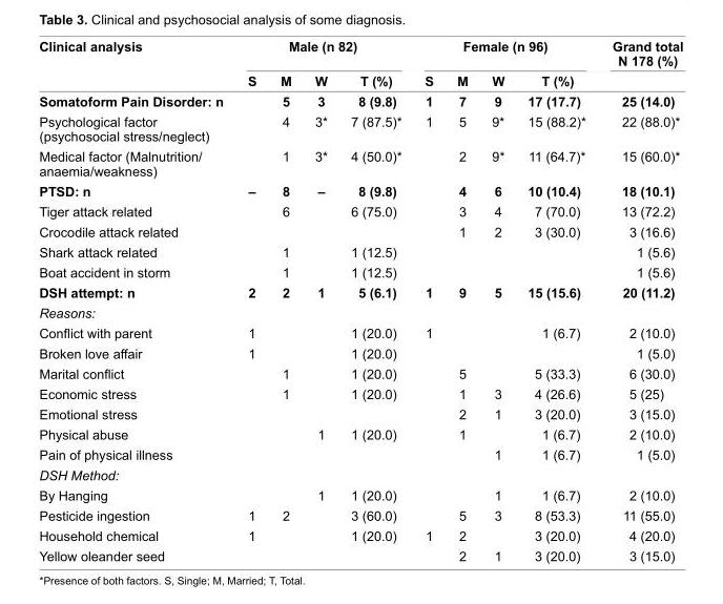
<table><thead><tr><td rowspan="2">Clinical analysis</td><td colspan="4">Male (n 82)</td><td colspan="4">Female (n 96)</td><td rowspan="2">Grand total N 178 (%)</td></tr><tr><td>S</td><td>M</td><td>W</td><td>T (%)</td><td>S</td><td>M</td><td>W</td><td>T (%)</td></tr></thead><tbody><tr><td>Somatoform Pain Disorder: n</td><td></td><td>5</td><td>3</td><td>8 (9.8)</td><td>1</td><td>7</td><td>9</td><td>17 (17.7)</td><td>25 (14.0)</td></tr><tr><td>Psychological factor (psychosocial stress/neglect)</td><td></td><td>4</td><td>3*</td><td>7 (87.5)*</td><td>1</td><td>5</td><td>9*</td><td>15 (88.2)*</td><td>22 (88.0)*</td></tr><tr><td>Medical factor (Malnutrition/ anaemia/weakness)</td><td></td><td>1</td><td>3*</td><td>4 (50.0)*</td><td></td><td>2</td><td>9*</td><td>11 (64.7)*</td><td>15 (60.0)*</td></tr><tr><td>PTSD: n</td><td>–</td><td>8</td><td>–</td><td>8 (9.8)</td><td></td><td>4</td><td>6</td><td>10 (10.4)</td><td>18 (10.1)</td></tr><tr><td>Tiger attack related</td><td></td><td>6</td><td></td><td>6 (75.0)</td><td></td><td>3</td><td>4</td><td>7 (70.0)</td><td>13 (72.2)</td></tr><tr><td>Crocodile attack related</td><td></td><td></td><td></td><td></td><td></td><td>1</td><td>2</td><td>3 (30.0)</td><td>3 (16.6)</td></tr><tr><td>Shark attack related</td><td></td><td>1</td><td></td><td>1 (12.5)</td><td></td><td></td><td></td><td></td><td>1 (5.6)</td></tr><tr><td>Boat accident in storm</td><td></td><td>1</td><td></td><td>1 (12.5)</td><td></td><td></td><td></td><td></td><td>1 (5.6)</td></tr><tr><td>DSH attempt: n</td><td>2</td><td>2</td><td>1</td><td>5 (6.1)</td><td>1</td><td>9</td><td>5</td><td>15 (15.6)</td><td>20 (11.2)</td></tr><tr><td colspan="10">Reasons:</td></tr><tr><td>Confl ict with parent</td><td>1</td><td></td><td></td><td>1 (20.0)</td><td>1</td><td></td><td></td><td>1 (6.7)</td><td>2 (10.0)</td></tr><tr><td>Broken love affair</td><td>1</td><td></td><td></td><td>1 (20.0)</td><td></td><td></td><td></td><td></td><td>1 (5.0)</td></tr><tr><td>Marital confl ict</td><td></td><td>1</td><td></td><td>1 (20.0)</td><td></td><td>5</td><td></td><td>5 (33.3)</td><td>6 (30.0)</td></tr><tr><td>Economic stress</td><td></td><td>1</td><td></td><td>1 (20.0)</td><td></td><td>1</td><td>3</td><td>4 (26.6)</td><td>5 (25)</td></tr><tr><td>Emotional stress</td><td></td><td></td><td></td><td></td><td></td><td>2</td><td>1</td><td>3 (20.0)</td><td>3 (15.0)</td></tr><tr><td>Physical abuse</td><td></td><td></td><td>1</td><td>1 (20.0)</td><td></td><td>1</td><td></td><td>1 (6.7)</td><td>2 (10.0)</td></tr><tr><td>Pain of physical illness</td><td></td><td></td><td></td><td></td><td></td><td></td><td>1</td><td>1 (6.7)</td><td>1 (5.0)</td></tr><tr><td colspan="10">DSH Method:</td></tr><tr><td>By Hanging</td><td></td><td></td><td>1</td><td>1 (20.0)</td><td></td><td></td><td>1</td><td>1 (6.7)</td><td>2 (10.0)</td></tr><tr><td>Pesticide ingestion</td><td>1</td><td>2</td><td></td><td>3 (60.0)</td><td></td><td>5</td><td>3</td><td>8 (53.3)</td><td>11 (55.0)</td></tr><tr><td>Household chemical</td><td>1</td><td></td><td></td><td>1 (20.0)</td><td>1</td><td>2</td><td></td><td>3 (20.0)</td><td>4 (20.0)</td></tr><tr><td>Yellow oleander seed</td><td></td><td></td><td></td><td></td><td></td><td>2</td><td>1</td><td>3 (20.0)</td><td>3 (15.0)</td></tr></tbody></table>